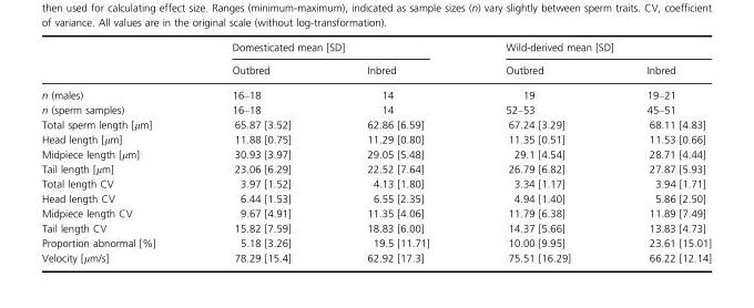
<table><thead><tr><td rowspan="2"></td><td colspan="2">Domesticated mean [SD]</td><td colspan="2">Wild-derived mean [SD]</td></tr><tr><td>Outbred</td><td>Inbred</td><td>Outbred</td><td>Inbred</td></tr></thead><tbody><tr><td>n (males)</td><td>16–18</td><td>14</td><td>19</td><td>19–21</td></tr><tr><td>n (sperm samples)</td><td>16–18</td><td>14</td><td>52–53</td><td>45–51</td></tr><tr><td>Total sperm length [μm]</td><td>65.87 [3.52]</td><td>62.86 [6.59]</td><td>67.24 [3.29]</td><td>68.11 [4.83]</td></tr><tr><td>Head length [μm]</td><td>11.88 [0.75]</td><td>11.29 [0.80]</td><td>11.35 [0.51]</td><td>11.53 [0.66]</td></tr><tr><td>Midpiece length [μm]</td><td>30.93 [3.97]</td><td>29.05 [5.48]</td><td>29.1 [4.54]</td><td>28.71 [4.44]</td></tr><tr><td>Tail length [μm]</td><td>23.06 [6.29]</td><td>22.52 [7.64]</td><td>26.79 [6.82]</td><td>27.87 [5.93]</td></tr><tr><td>Total length CV</td><td>3.97 [1.52]</td><td>4.13 [1.80]</td><td>3.34 [1.17]</td><td>3.94 [1.71]</td></tr><tr><td>Head length CV</td><td>6.44 [1.53]</td><td>6.55 [2.35]</td><td>4.94 [1.40]</td><td>5.86 [2.50]</td></tr><tr><td>Midpiece length CV</td><td>9.67 [4.91]</td><td>11.35 [4.06]</td><td>11.79 [6.38]</td><td>11.89 [7.49]</td></tr><tr><td>Tail length CV</td><td>15.82 [7.59]</td><td>18.83 [6.00]</td><td>14.37 [5.66]</td><td>13.83 [4.73]</td></tr><tr><td>Proportion abnormal [%]</td><td>5.18 [3.26]</td><td>19.5 [11.71]</td><td>10.00 [9.95]</td><td>23.61 [15.01]</td></tr><tr><td>Velocity [μm/s]</td><td>78.29 [15.4]</td><td>62.92 [17.3]</td><td>75.51 [16.29]</td><td>66.22 [12.14]</td></tr></tbody></table>